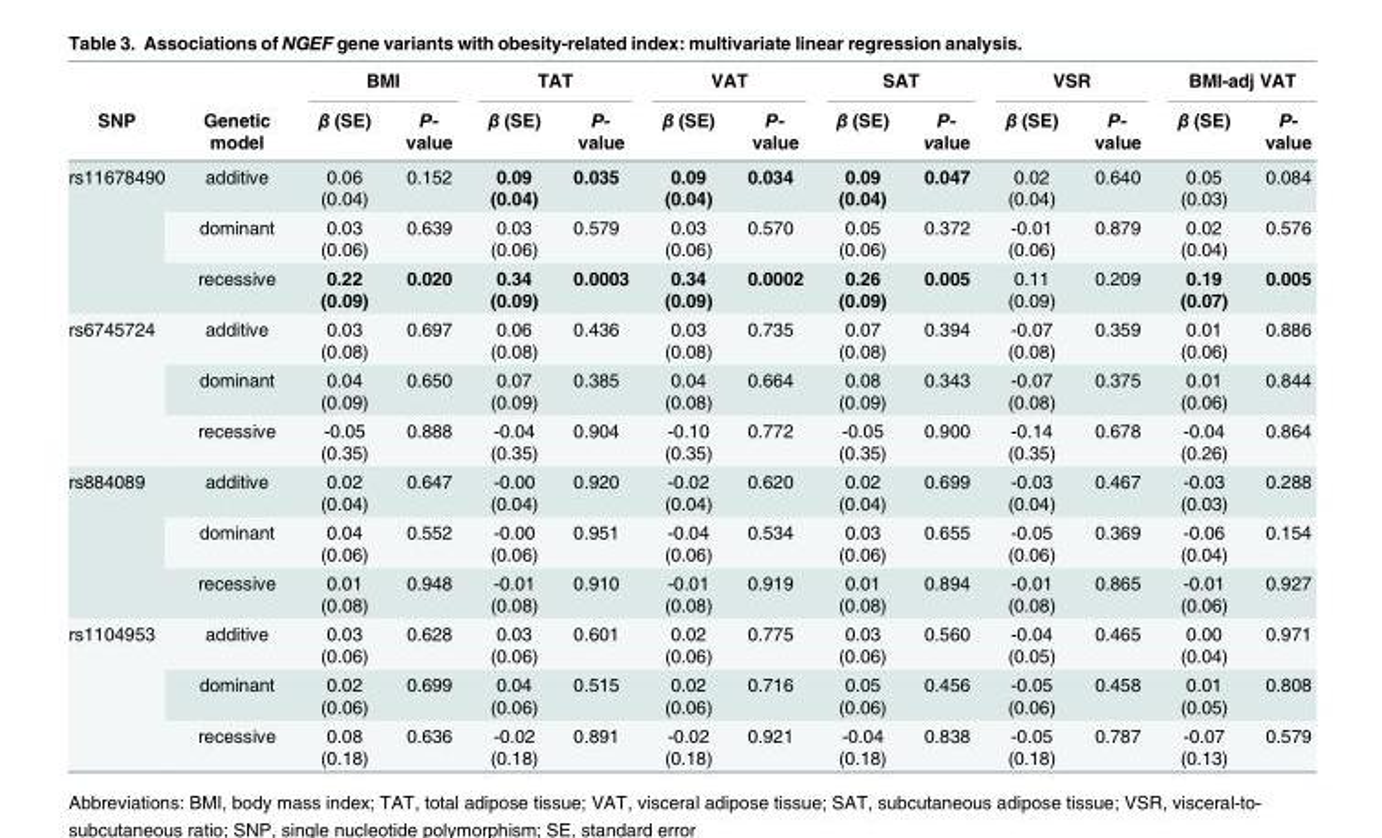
<table><thead><tr><td rowspan="2">SNP</td><td rowspan="2">Genetic model</td><td colspan="2">BMI</td><td colspan="2">TAT</td><td colspan="2">VAT</td><td colspan="2">SAT</td><td colspan="2">VSR</td><td colspan="2">BMI-adj VAT</td></tr><tr><td>β (SE)</td><td>P- value</td><td>β (SE)</td><td>P- value</td><td>β (SE)</td><td>P- value</td><td>β (SE)</td><td>P- value</td><td>β (SE)</td><td>P- value</td><td>β (SE)</td><td>P- value</td></tr></thead><tbody><tr><td rowspan="3">rs11678490</td><td>additive</td><td>0.06 (0.04)</td><td>0.152</td><td>0.09 (0.04)</td><td>0.035</td><td>0.09 (0.04)</td><td>0.034</td><td>0.09 (0.04)</td><td>0.047</td><td>0.02 (0.04)</td><td>0.640</td><td>0.05 (0.03)</td><td>0.084</td></tr><tr><td>dominant</td><td>0.03 (0.06)</td><td>0.639</td><td>0.03 (0.06)</td><td>0.579</td><td>0.03 (0.06)</td><td>0.570</td><td>0.05 (0.06)</td><td>0.372</td><td>-0.01 (0.06)</td><td>0.879</td><td>0.02 (0.04)</td><td>0.576</td></tr><tr><td>recessive</td><td>0.22 (0.09)</td><td>0.020</td><td>0.34 (0.09)</td><td>0.0003</td><td>0.34 (0.09)</td><td>0.0002</td><td>0.26 (0.09)</td><td>0.005</td><td>0.11 (0.09)</td><td>0.209</td><td>0.19 (0.07)</td><td>0.005</td></tr><tr><td rowspan="3">rs6745724</td><td>additive</td><td>0.03 (0.08)</td><td>0.697</td><td>0.06 (0.08)</td><td>0.436</td><td>0.03 (0.08)</td><td>0.735</td><td>0.07 (0.08)</td><td>0.394</td><td>-0.07 (0.08)</td><td>0.359</td><td>0.01 (0.06)</td><td>0.886</td></tr><tr><td>dominant</td><td>0.04 (0.09)</td><td>0.650</td><td>0.07 (0.09)</td><td>0.385</td><td>0.04 (0.08)</td><td>0.664</td><td>0.08 (0.09)</td><td>0.343</td><td>-0.07 (0.08)</td><td>0.375</td><td>0.01 (0.06)</td><td>0.844</td></tr><tr><td>recessive</td><td>-0.05 (0.35)</td><td>0.888</td><td>-0.04 (0.35)</td><td>0.904</td><td>-0.10 (0.35)</td><td>0.772</td><td>-0.05 (0.35)</td><td>0.900</td><td>-0.14 (0.35)</td><td>0.678</td><td>-0.04 (0.26)</td><td>0.864</td></tr><tr><td rowspan="3">rs884089</td><td>additive</td><td>0.02 (0.04)</td><td>0.647</td><td>-0.00 (0.04)</td><td>0.920</td><td>-0.02 (0.04)</td><td>0.620</td><td>0.02 (0.04)</td><td>0.699</td><td>-0.03 (0.04)</td><td>0.467</td><td>-0.03 (0.03)</td><td>0.288</td></tr><tr><td>dominant</td><td>0.04 (0.06)</td><td>0.552</td><td>-0.00 (0.06)</td><td>0.951</td><td>-0.04 (0.06)</td><td>0.534</td><td>0.03 (0.06)</td><td>0.655</td><td>-0.05 (0.06)</td><td>0.369</td><td>-0.06 (0.04)</td><td>0.154</td></tr><tr><td>recessive</td><td>0.01 (0.08)</td><td>0.948</td><td>-0.01 (0.08)</td><td>0.910</td><td>-0.01 (0.08)</td><td>0.919</td><td>0.01 (0.08)</td><td>0.894</td><td>-0.01 (0.08)</td><td>0.865</td><td>-0.01 (0.06)</td><td>0.927</td></tr><tr><td rowspan="3">rs1104953</td><td>additive</td><td>0.03 (0.06)</td><td>0.628</td><td>0.03 (0.06)</td><td>0.601</td><td>0.02 (0.06)</td><td>0.775</td><td>0.03 (0.06)</td><td>0.560</td><td>-0.04 (0.05)</td><td>0.465</td><td>0.00 (0.04)</td><td>0.971</td></tr><tr><td>dominant</td><td>0.02 (0.06)</td><td>0.699</td><td>0.04 (0.06)</td><td>0.515</td><td>0.02 (0.06)</td><td>0.716</td><td>0.05 (0.06)</td><td>0.456</td><td>-0.05 (0.06)</td><td>0.458</td><td>0.01 (0.05)</td><td>0.808</td></tr><tr><td>recessive</td><td>0.08 (0.18)</td><td>0.636</td><td>-0.02 (0.18)</td><td>0.891</td><td>-0.02 (0.18)</td><td>0.921</td><td>-0.04 (0.18)</td><td>0.838</td><td>-0.05 (0.18)</td><td>0.787</td><td>-0.07 (0.13)</td><td>0.579</td></tr></tbody></table>